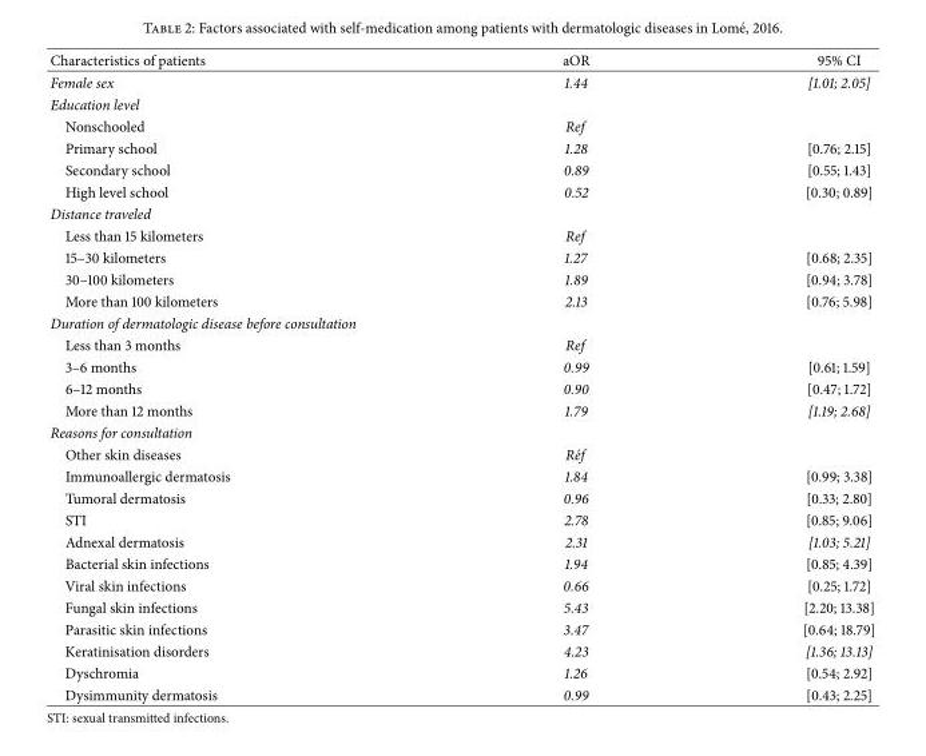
<table><thead><tr><td>Characteristics of patients</td><td>aOR</td><td>95% CI</td></tr></thead><tbody><tr><td>Female sex</td><td>1.44</td><td>[1.01; 2.05]</td></tr><tr><td colspan="3">Education level</td></tr><tr><td>Nonschooled</td><td>Ref</td><td></td></tr><tr><td>Primary school</td><td>1.28</td><td>[0.76; 2.15]</td></tr><tr><td>Secondary school</td><td>0.89</td><td>[0.55; 1.43]</td></tr><tr><td>High level school</td><td>0.52</td><td>[0.30; 0.89]</td></tr><tr><td colspan="3">Distance traveled</td></tr><tr><td>Less than 15 kilometers</td><td>Ref</td><td></td></tr><tr><td>15–30 kilometers</td><td>1.27</td><td>[0.68; 2.35]</td></tr><tr><td>30–100 kilometers</td><td>1.89</td><td>[0.94; 3.78]</td></tr><tr><td>More than 100 kilometers</td><td>2.13</td><td>[0.76; 5.98]</td></tr><tr><td colspan="3">Duration of dermatologic disease before consultation</td></tr><tr><td>Less than 3 months</td><td>Ref</td><td></td></tr><tr><td>3–6 months</td><td>0.99</td><td>[0.61; 1.59]</td></tr><tr><td>6–12 months</td><td>0.90</td><td>[0.47; 1.72]</td></tr><tr><td>More than 12 months</td><td>1.79</td><td>[1.19; 2.68]</td></tr><tr><td colspan="3">Reasons for consultation</td></tr><tr><td>Other skin diseases</td><td>R´ef</td><td></td></tr><tr><td>Immunoallergic dermatosis</td><td>1.84</td><td>[0.99; 3.38]</td></tr><tr><td>Tumoral dermatosis</td><td>0.96</td><td>[0.33; 2.80]</td></tr><tr><td>STI</td><td>2.78</td><td>[0.85; 9.06]</td></tr><tr><td>Adnexal dermatosis</td><td>2.31</td><td>[1.03; 5.21]</td></tr><tr><td>Bacterial skin infections</td><td>1.94</td><td>[0.85; 4.39]</td></tr><tr><td>Viral skin infections</td><td>0.66</td><td>[0.25; 1.72]</td></tr><tr><td>Fungal skin infections</td><td>5.43</td><td>[2.20; 13.38]</td></tr><tr><td>Parasitic skin infections</td><td>3.47</td><td>[0.64; 18.79]</td></tr><tr><td>Keratinisation disorders</td><td>4.23</td><td>[1.36; 13.13]</td></tr><tr><td>Dyschromia</td><td>1.26</td><td>[0.54; 2.92]</td></tr><tr><td>Dysimmunity dermatosis</td><td>0.99</td><td>[0.43; 2.25]</td></tr></tbody></table>